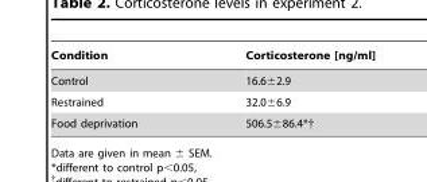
<table><thead><tr><td>Condition</td><td>Corticosterone [ng/ml]</td></tr></thead><tbody><tr><td>Control</td><td>16.6±2.9</td></tr><tr><td>Restrained</td><td>32.0±6.9</td></tr><tr><td>Food deprivation</td><td>506.5±86.4*†</td></tr></tbody></table>